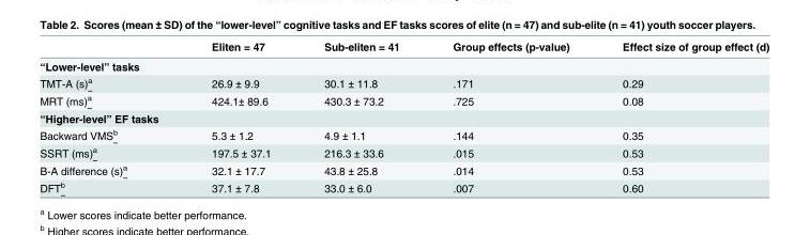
<table><thead><tr><td></td><td>Eliten = 47</td><td>Sub-eliten = 41</td><td>Group effects (p-value)</td><td>Effect size of group effect (d)</td></tr></thead><tbody><tr><td colspan="5">“Lower-level” tasks</td></tr><tr><td>TMT-A (s)<sup>a</sup></td><td>26.9 ± 9.9</td><td>30.1 ± 11.8</td><td>.171</td><td>0.29</td></tr><tr><td>MRT (ms)<sup>a</sup></td><td>424.1± 89.6</td><td>430.3 ± 73.2</td><td>.725</td><td>0.08</td></tr><tr><td colspan="5">“Higher-level” EF tasks</td></tr><tr><td>Backward VMS<sup>b</sup></td><td>5.3 ± 1.2</td><td>4.9 ± 1.1</td><td>.144</td><td>0.35</td></tr><tr><td>SSRT (ms)<sup>a</sup></td><td>197.5 ± 37.1</td><td>216.3 ± 33.6</td><td>.015</td><td>0.53</td></tr><tr><td>B-A difference (s)<sup>a</sup></td><td>32.1 ± 17.7</td><td>43.8 ± 25.8</td><td>.014</td><td>0.53</td></tr><tr><td>DFT<sup>b</sup></td><td>37.1 ± 7.8</td><td>33.0 ± 6.0</td><td>.007</td><td>0.60</td></tr></tbody></table>